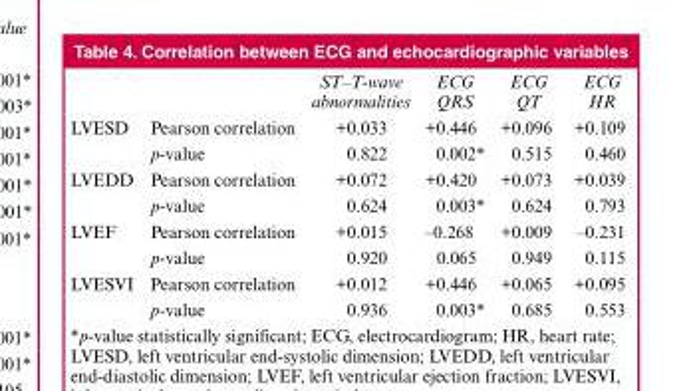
<table><thead><tr><td></td><td></td><td>ST–T-wave abnormalities</td><td>ECG QRS</td><td>ECG QT</td><td>ECG HR</td></tr></thead><tbody><tr><td rowspan="2">LVESD</td><td>Pearson correlation</td><td>+0.033</td><td>+0.446</td><td>+0.096</td><td>+0.109</td></tr><tr><td>p-value</td><td>0.822</td><td>0.002*</td><td>0.515</td><td>0.460</td></tr><tr><td rowspan="2">LVEDD</td><td>Pearson correlation</td><td>+0.072</td><td>+0.420</td><td>+0.073</td><td>+0.039</td></tr><tr><td>p-value</td><td>0.624</td><td>0.003*</td><td>0.624</td><td>0.793</td></tr><tr><td rowspan="2">LVEF</td><td>Pearson correlation</td><td>+0.015</td><td>–0.268</td><td>+0.009</td><td>–0.231</td></tr><tr><td>p-value</td><td>0.920</td><td>0.065</td><td>0.949</td><td>0.115</td></tr><tr><td rowspan="2">LVESVI</td><td>Pearson correlation</td><td>+0.012</td><td>+0.446</td><td>+0.065</td><td>+0.095</td></tr><tr><td>p-value</td><td>0.936</td><td>0.003*</td><td>0.685</td><td>0.553</td></tr></tbody></table>